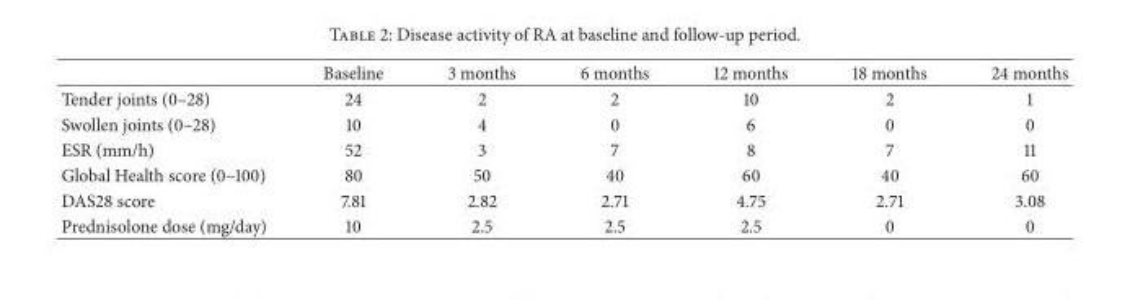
<table><thead><tr><td></td><td>Baseline</td><td>3 months</td><td>6 months</td><td>12 months</td><td>18 months</td><td>24 months</td></tr></thead><tbody><tr><td>Tender joints (0–28)</td><td>24</td><td>2</td><td>2</td><td>10</td><td>2</td><td>1</td></tr><tr><td>Swollen joints (0–28)</td><td>10</td><td>4</td><td>0</td><td>6</td><td>0</td><td>0</td></tr><tr><td>ESR (mm/h)</td><td>52</td><td>3</td><td>7</td><td>8</td><td>7</td><td>11</td></tr><tr><td>Global Health score (0–100)</td><td>80</td><td>50</td><td>40</td><td>60</td><td>40</td><td>60</td></tr><tr><td>DAS28 score</td><td>7.81</td><td>2.82</td><td>2.71</td><td>4.75</td><td>2.71</td><td>3.08</td></tr><tr><td>Prednisolone dose (mg/day)</td><td>10</td><td>2.5</td><td>2.5</td><td>2.5</td><td>0</td><td>0</td></tr></tbody></table>